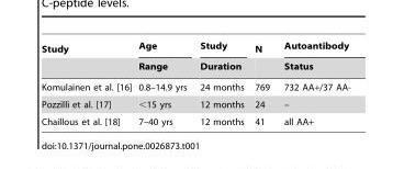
<table><thead><tr><td rowspan="2">Study</td><td rowspan="2">Age Range</td><td rowspan="2">Study Duration</td><td rowspan="2">N</td><td rowspan="2">Autoantibody Status</td></tr><tr></tr></thead><tbody><tr><td>Komulainen et al. [16]</td><td>0.8–14.9 yrs</td><td>24 months</td><td>769</td><td>732 AA+/37 AA-</td></tr><tr><td>Pozzilli et al. [17]</td><td>&lt;15 yrs</td><td>12 months</td><td>24</td><td>–</td></tr><tr><td>Chaillous et al. [18]</td><td>7–40 yrs</td><td>12 months</td><td>41</td><td>all AA+</td></tr></tbody></table>